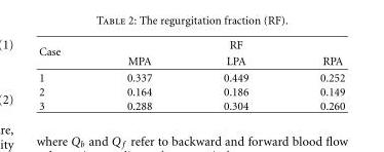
<table><thead><tr><td rowspan="2">Case</td><td rowspan="2">MPA</td><td rowspan="2">RF LPA</td><td rowspan="2">RPA</td></tr><tr></tr></thead><tbody><tr><td>1</td><td>0.337</td><td>0.449</td><td>0.252</td></tr><tr><td>2</td><td>0.164</td><td>0.186</td><td>0.149</td></tr><tr><td>3</td><td>0.288</td><td>0.304</td><td>0.260</td></tr></tbody></table>